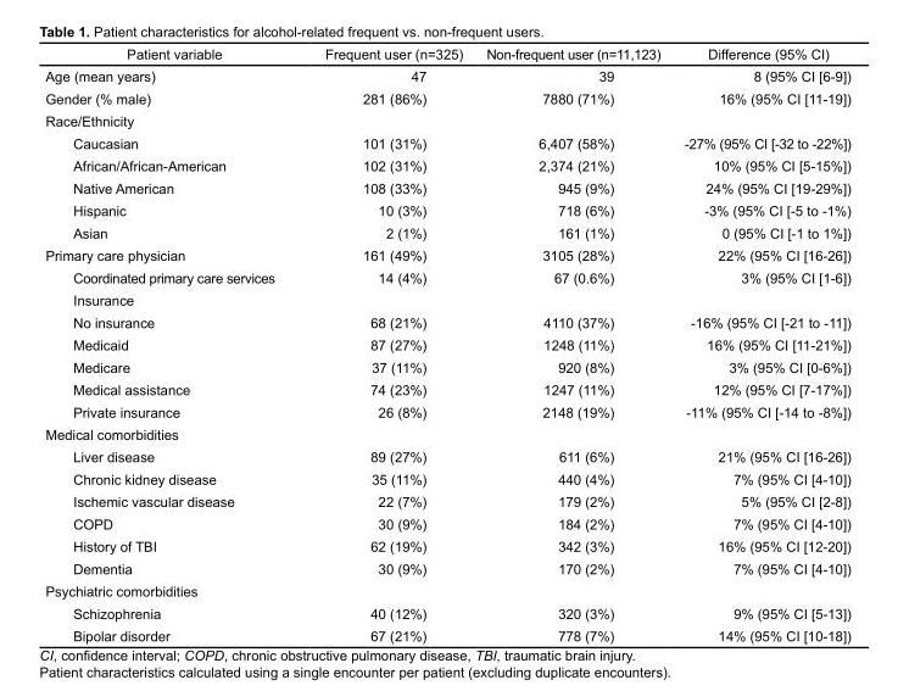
<table><thead><tr><td>Patient variable</td><td>Frequent user (n=325)</td><td>Non-frequent user (n=11,123)</td><td>Difference (95% CI)</td></tr></thead><tbody><tr><td>Age (mean years)</td><td>47</td><td>39</td><td>8 (95% CI [6-9])</td></tr><tr><td>Gender (% male)</td><td>281 (86%)</td><td>7880 (71%)</td><td>16% (95% CI [11-19])</td></tr><tr><td colspan="4">Race/Ethnicity</td></tr><tr><td>Caucasian</td><td>101 (31%)</td><td>6,407 (58%)</td><td>-27% (95% CI [-32 to -22%])</td></tr><tr><td>African/African-American</td><td>102 (31%)</td><td>2,374 (21%)</td><td>10% (95% CI [5-15%])</td></tr><tr><td>Native American</td><td>108 (33%)</td><td>945 (9%)</td><td>24% (95% CI [19-29%])</td></tr><tr><td>Hispanic</td><td>10 (3%)</td><td>718 (6%)</td><td>-3% (95% CI [-5 to -1%)</td></tr><tr><td>Asian</td><td>2 (1%)</td><td>161 (1%)</td><td>0 (95% CI [-1 to 1%])</td></tr><tr><td>Primary care physician</td><td>161 (49%)</td><td>3105 (28%)</td><td>22% (95% CI [16-26])</td></tr><tr><td>Coordinated primary care services</td><td>14 (4%)</td><td>67 (0.6%)</td><td>3% (95% CI [1-6])</td></tr><tr><td colspan="4">Insurance</td></tr><tr><td>No insurance</td><td>68 (21%)</td><td>4110 (37%)</td><td>-16% (95% CI [-21 to -11])</td></tr><tr><td>Medicaid</td><td>87 (27%)</td><td>1248 (11%)</td><td>16% (95% CI [11-21%])</td></tr><tr><td>Medicare</td><td>37 (11%)</td><td>920 (8%)</td><td>3% (95% CI [0-6%])</td></tr><tr><td>Medical assistance</td><td>74 (23%)</td><td>1247 (11%)</td><td>12% (95% CI [7-17%])</td></tr><tr><td>Private insurance</td><td>26 (8%)</td><td>2148 (19%)</td><td>-11% (95% CI [-14 to -8%])</td></tr><tr><td colspan="4">Medical comorbidities</td></tr><tr><td>Liver disease</td><td>89 (27%)</td><td>611 (6%)</td><td>21% (95% CI [16-26])</td></tr><tr><td>Chronic kidney disease</td><td>35 (11%)</td><td>440 (4%)</td><td>7% (95% CI [4-10])</td></tr><tr><td>Ischemic vascular disease</td><td>22 (7%)</td><td>179 (2%)</td><td>5% (95% CI [2-8])</td></tr><tr><td>COPD</td><td>30 (9%)</td><td>184 (2%)</td><td>7% (95% CI [4-10])</td></tr><tr><td>History of TBI</td><td>62 (19%)</td><td>342 (3%)</td><td>16% (95% CI [12-20])</td></tr><tr><td>Dementia</td><td>30 (9%)</td><td>170 (2%)</td><td>7% (95% CI [4-10])</td></tr><tr><td colspan="4">Psychiatric comorbidities</td></tr><tr><td>Schizophrenia</td><td>40 (12%)</td><td>320 (3%)</td><td>9% (95% CI [5-13])</td></tr><tr><td>Bipolar disorder</td><td>67 (21%)</td><td>778 (7%)</td><td>14% (95% CI [10-18])</td></tr></tbody></table>